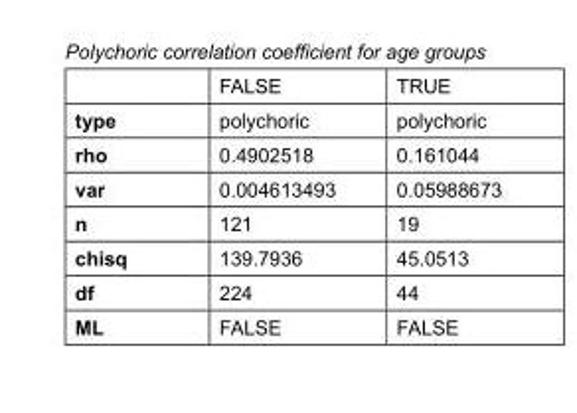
<table><thead><tr><td></td><td>FALSE</td><td>TRUE</td></tr></thead><tbody><tr><td>type</td><td>polychoric</td><td>polychoric</td></tr><tr><td>rho</td><td>0.4902518</td><td>0.161044</td></tr><tr><td>var</td><td>0.004613493</td><td>0.05988673</td></tr><tr><td>n</td><td>121</td><td>19</td></tr><tr><td>chisq</td><td>139.7936</td><td>45.0513</td></tr><tr><td>df</td><td>224</td><td>44</td></tr><tr><td>ML</td><td>FALSE</td><td>FALSE</td></tr></tbody></table>